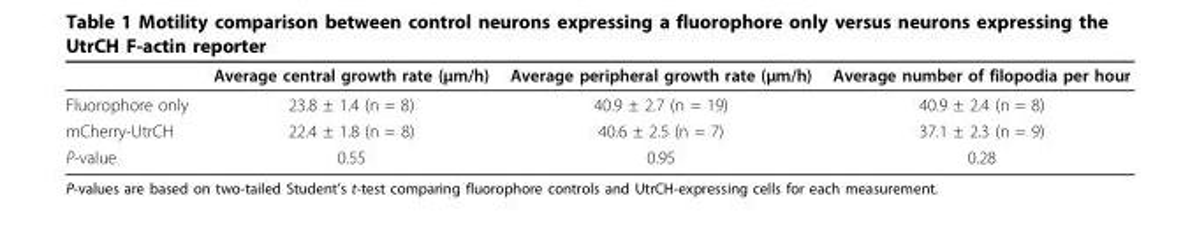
<table><thead><tr><td></td><td>Average central growth rate (μm/h)</td><td>Average peripheral growth rate (μm/h)</td><td>Average number of filopodia per hour</td></tr></thead><tbody><tr><td>Fluorophore only</td><td>23.8 ± 1.4 (n = 8)</td><td>40.9 ± 2.7 (n = 19)</td><td>40.9 ± 2.4 (n = 8)</td></tr><tr><td>mCherry-UtrCH</td><td>22.4 ± 1.8 (n = 8)</td><td>40.6 ± 2.5 (n = 7)</td><td>37.1 ± 2.3 (n = 9)</td></tr><tr><td>P-value</td><td>0.55</td><td>0.95</td><td>0.28</td></tr></tbody></table>